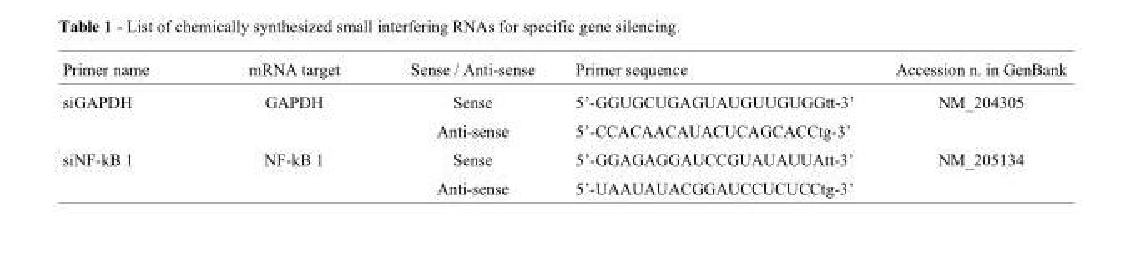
<table><thead><tr><td>Primer name</td><td>mRNA target</td><td>Sense / Anti-sense</td><td>Primer sequence</td><td>Accession n. in GenBank</td></tr></thead><tbody><tr><td rowspan="2">siGAPDH</td><td>GAPDH</td><td>Sense</td><td>5’-GGUGCUGAGUAUGUUGUGGtt-3’</td><td>NM_204305</td></tr><tr><td></td><td>Anti-sense</td><td>5’-CCACAACAUACUCAGCACCtg-3’</td><td></td></tr><tr><td rowspan="2">siNF-kB 1</td><td>NF-kB 1</td><td>Sense</td><td>5’-GGAGAGGAUCCGUAUAUUAtt-3’</td><td>NM_205134</td></tr><tr><td></td><td>Anti-sense</td><td>5’-UAAUAUACGGAUCCUCUCCtg-3’</td><td></td></tr></tbody></table>